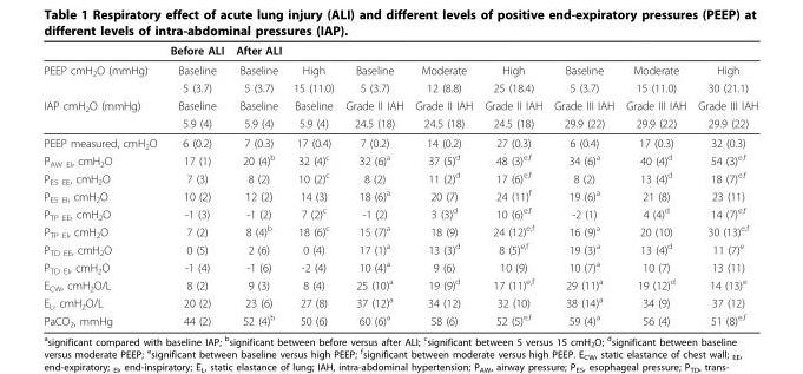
<table><thead><tr><td></td><td>Before ALI</td><td>After ALI</td><td></td><td></td><td></td><td></td><td></td><td></td><td></td></tr></thead><tbody><tr><td rowspan="2">PEEP cmH<sub>2</sub>O (mmHg)</td><td>Baseline</td><td>Baseline</td><td>High</td><td>Baseline</td><td>Moderate</td><td>High</td><td>Baseline</td><td>Moderate</td><td>High</td></tr><tr><td>5 (3.7)</td><td>5 (3.7)</td><td>15 (11.0)</td><td>5 (3.7)</td><td>12 (8.8)</td><td>25 (18.4)</td><td>5 (3.7)</td><td>15 (11.0)</td><td>30 (21.1)</td></tr><tr><td rowspan="2">IAP cmH<sub>2</sub>O (mmHg)</td><td>Baseline</td><td>Baseline</td><td>Baseline</td><td>Grade II IAH</td><td>Grade II IAH</td><td>Grade II IAH</td><td>Grade III IAH</td><td>Grade III IAH</td><td>Grade III IAH</td></tr><tr><td>5.9 (4)</td><td>5.9 (4)</td><td>5.9 (4)</td><td>24.5 (18)</td><td>24.5 (18)</td><td>24.5 (18)</td><td>29.9 (22)</td><td>29.9 (22)</td><td>29.9 (22)</td></tr><tr><td>PEEP measured, cmH<sub>2</sub>O</td><td>6 (0.2)</td><td>7 (0.3)</td><td>17 (0.4)</td><td>7 (0.2)</td><td>14 (0.2)</td><td>27 (0.3)</td><td>6 (0.4)</td><td>17 (0.3)</td><td>32 (0.3)</td></tr><tr><td>P<sub>AW EI</sub>, cmH<sub>2</sub>O</td><td>17 (1)</td><td>20 (4)<sup>b</sup></td><td>32 (4)<sup>c</sup></td><td>32 (6)<sup>a</sup></td><td>37 (5)<sup>d</sup></td><td>48 (3)<sup>e,f</sup></td><td>34 (6)<sup>a</sup></td><td>40 (4)<sup>d</sup></td><td>54 (3)<sup>e,f</sup></td></tr><tr><td>P<sub>ES EE</sub>, cmH<sub>2</sub>O</td><td>7 (3)</td><td>8 (2)</td><td>10 (2)<sup>c</sup></td><td>8 (2)</td><td>11 (2)<sup>d</sup></td><td>17 (6)<sup>e,f</sup></td><td>8 (2)</td><td>13 (4)<sup>d</sup></td><td>18 (7)<sup>e,f</sup></td></tr><tr><td>P<sub>ES EI</sub>, cmH<sub>2</sub>O</td><td>10 (2)</td><td>12 (2)</td><td>14 (3)</td><td>18 (6)<sup>a</sup></td><td>20 (7)</td><td>24 (11)<sup>f</sup></td><td>19 (6)<sup>a</sup></td><td>21 (8)</td><td>23 (11)</td></tr><tr><td>P<sub>TP EE</sub>, cmH<sub>2</sub>O</td><td>-1 (3)</td><td>-1 (2)</td><td>7 (2)<sup>c</sup></td><td>-1 (2)</td><td>3 (3)<sup>d</sup></td><td>10 (6)<sup>e,f</sup></td><td>-2 (1)</td><td>4 (4)<sup>d</sup></td><td>14 (7)<sup>e,f</sup></td></tr><tr><td>P<sub>TP EI</sub>, cmH<sub>2</sub>O</td><td>7 (2)</td><td>8 (4)<sup>b</sup></td><td>18 (6)<sup>c</sup></td><td>15 (7)<sup>a</sup></td><td>18 (9)</td><td>24 (12)<sup>e,f</sup></td><td>16 (9)<sup>a</sup></td><td>20 (10)</td><td>30 (13)<sup>e,f</sup></td></tr><tr><td>P<sub>TD EE</sub>, cmH<sub>2</sub>O</td><td>0 (5)</td><td>2 (6)</td><td>0 (4)</td><td>17 (1)<sup>a</sup></td><td>13 (3)<sup>d</sup></td><td>8 (5)<sup>e,f</sup></td><td>19 (3)<sup>a</sup></td><td>13 (4)<sup>d</sup></td><td>11 (7)<sup>e</sup></td></tr><tr><td>P<sub>TD EI</sub>, cmH<sub>2</sub>O</td><td>-1 (4)</td><td>-1 (6)</td><td>-2 (4)</td><td>10 (4)<sup>a</sup></td><td>9 (6)</td><td>10 (9)</td><td>10 (7)<sup>a</sup></td><td>10 (7)</td><td>13 (11)</td></tr><tr><td>E<sub>CW</sub>, cmH<sub>2</sub>O/L</td><td>8 (2)</td><td>9 (3)</td><td>8 (4)</td><td>25 (10)<sup>a</sup></td><td>19 (9)<sup>d</sup></td><td>17 (11)<sup>e,f</sup></td><td>29 (11)<sup>a</sup></td><td>19 (12)<sup>d</sup></td><td>14 (13)<sup>e</sup></td></tr><tr><td>E<sub>L</sub>, cmH<sub>2</sub>O/L</td><td>20 (2)</td><td>23 (6)</td><td>27 (8)</td><td>37 (12)<sup>a</sup></td><td>34 (12)</td><td>32 (10)</td><td>38 (14)<sup>a</sup></td><td>34 (9)</td><td>37 (12)</td></tr><tr><td>PaCO<sub>2</sub>, mmHg</td><td>44 (2)</td><td>52 (4)<sup>b</sup></td><td>50 (6)</td><td>60 (6)<sup>a</sup></td><td>58 (6)</td><td>52 (5)<sup>e,f</sup></td><td>59 (4)<sup>a</sup></td><td>56 (4)</td><td>51 (8)<sup>e,f</sup></td></tr></tbody></table>